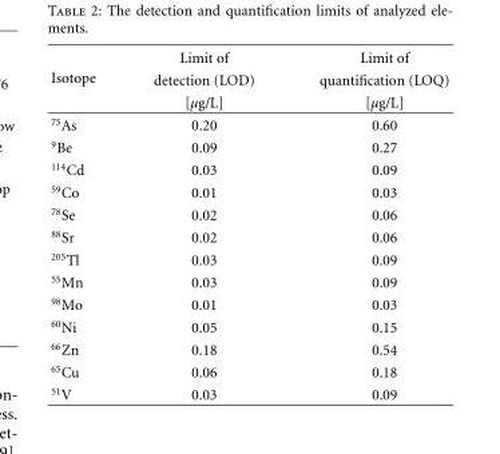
<table><thead><tr><td rowspan="3">Isotope</td><td rowspan="3">Limit of detection (LOD) [µg/L]</td><td rowspan="3">Limit of quantification (LOQ) [µg/L]</td></tr><tr></tr><tr></tr></thead><tbody><tr><td><sup>75</sup>As</td><td>0.20</td><td>0.60</td></tr><tr><td><sup>9</sup>Be</td><td>0.09</td><td>0.27</td></tr><tr><td><sup>114</sup>Cd</td><td>0.03</td><td>0.09</td></tr><tr><td><sup>59</sup>Co</td><td>0.01</td><td>0.03</td></tr><tr><td><sup>78</sup>Se</td><td>0.02</td><td>0.06</td></tr><tr><td><sup>88</sup>Sr</td><td>0.02</td><td>0.06</td></tr><tr><td><sup>205</sup>Tl</td><td>0.03</td><td>0.09</td></tr><tr><td><sup>55</sup>Mn</td><td>0.03</td><td>0.09</td></tr><tr><td><sup>98</sup>Mo</td><td>0.01</td><td>0.03</td></tr><tr><td><sup>60</sup>Ni</td><td>0.05</td><td>0.15</td></tr><tr><td><sup>66</sup>Zn</td><td>0.18</td><td>0.54</td></tr><tr><td><sup>65</sup>Cu</td><td>0.06</td><td>0.18</td></tr><tr><td><sup>51</sup>V</td><td>0.03</td><td>0.09</td></tr></tbody></table>